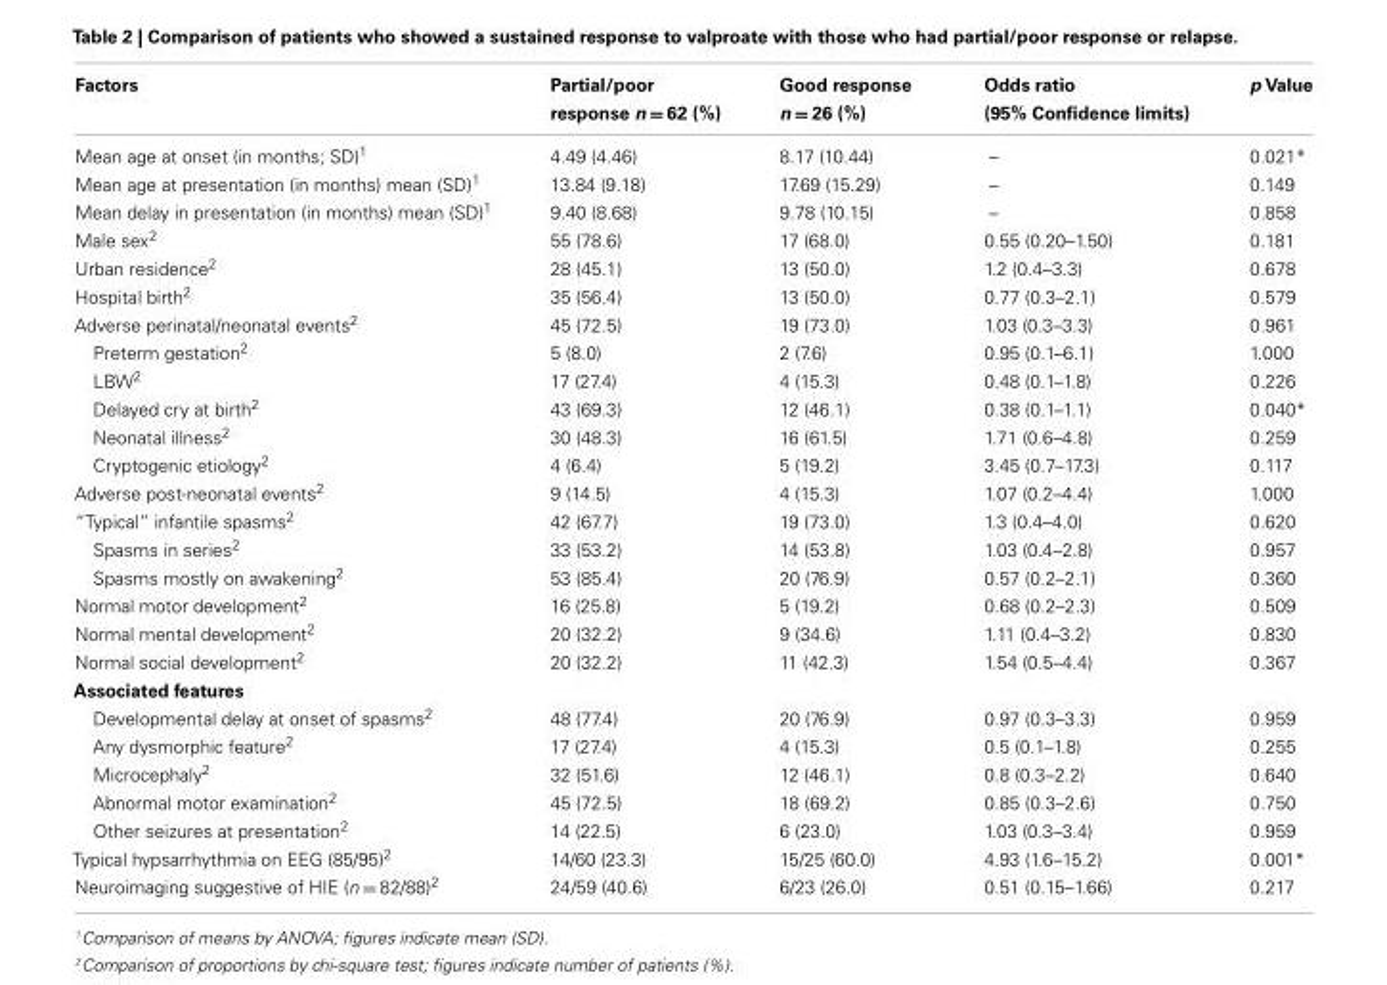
<table><thead><tr><td>Factors</td><td>Partial/poor response n = 62 (%)</td><td>Good response n = 26 (%)</td><td>Odds ratio (95% Confidence limits)</td><td>p Value</td></tr></thead><tbody><tr><td>Mean age at onset (in months; SD)<sup>1</sup></td><td>4.49 (4.46)</td><td>8.17 (10.44)</td><td>–</td><td>0.021*</td></tr><tr><td>Mean age at presentation (in months) mean (SD)<sup>1</sup></td><td>13.84 (9.18)</td><td>17.69 (15.29)</td><td>–</td><td>0.149</td></tr><tr><td>Mean delay in presentation (in months) mean (SD)<sup>1</sup></td><td>9.40 (8.68)</td><td>9.78 (10.15)</td><td>–</td><td>0.858</td></tr><tr><td>Male sex<sup>2</sup></td><td>55 (78.6)</td><td>17 (68.0)</td><td>0.55 (0.20–1.50)</td><td>0.181</td></tr><tr><td>Urban residence<sup>2</sup></td><td>28 (45.1)</td><td>13 (50.0)</td><td>1.2 (0.4–3.3)</td><td>0.678</td></tr><tr><td>Hospital birth<sup>2</sup></td><td>35 (56.4)</td><td>13 (50.0)</td><td>0.77 (0.3–2.1)</td><td>0.579</td></tr><tr><td>Adverse perinatal/neonatal events<sup>2</sup></td><td>45 (72.5)</td><td>19 (73.0)</td><td>1.03 (0.3–3.3)</td><td>0.961</td></tr><tr><td>Preterm gestation<sup>2</sup></td><td>5 (8.0)</td><td>2 (7.6)</td><td>0.95 (0.1–6.1)</td><td>1.000</td></tr><tr><td>LBW<sup>2</sup></td><td>17 (27.4)</td><td>4 (15.3)</td><td>0.48 (0.1–1.8)</td><td>0.226</td></tr><tr><td>Delayed cry at birth<sup>2</sup></td><td>43 (69.3)</td><td>12 (46.1)</td><td>0.38 (0.1–1.1)</td><td>0.040*</td></tr><tr><td>Neonatal illness<sup>2</sup></td><td>30 (48.3)</td><td>16 (61.5)</td><td>1.71 (0.6–4.8)</td><td>0.259</td></tr><tr><td>Cryptogenic etiology<sup>2</sup></td><td>4 (6.4)</td><td>5 (19.2)</td><td>3.45 (0.7–17.3)</td><td>0.117</td></tr><tr><td>Adverse post-neonatal events<sup>2</sup></td><td>9 (14.5)</td><td>4 (15.3)</td><td>1.07 (0.2–4.4)</td><td>1.000</td></tr><tr><td>“Typical” infantile spasms<sup>2</sup></td><td>42 (67.7)</td><td>19 (73.0)</td><td>1.3 (0.4–4.0)</td><td>0.620</td></tr><tr><td>Spasms in series<sup>2</sup></td><td>33 (53.2)</td><td>14 (53.8)</td><td>1.03 (0.4–2.8)</td><td>0.957</td></tr><tr><td>Spasms mostly on awakening<sup>2</sup></td><td>53 (85.4)</td><td>20 (76.9)</td><td>0.57 (0.2–2.1)</td><td>0.360</td></tr><tr><td>Normal motor development<sup>2</sup></td><td>16 (25.8)</td><td>5 (19.2)</td><td>0.68 (0.2–2.3)</td><td>0.509</td></tr><tr><td>Normal mental development<sup>2</sup></td><td>20 (32.2)</td><td>9 (34.6)</td><td>1.11 (0.4–3.2)</td><td>0.830</td></tr><tr><td>Normal social development<sup>2</sup></td><td>20 (32.2)</td><td>11 (42.3)</td><td>1.54 (0.5–4.4)</td><td>0.367</td></tr><tr><td colspan="5">Associated features</td></tr><tr><td>Developmental delay at onset of spasms<sup>2</sup></td><td>48 (77.4)</td><td>20 (76.9)</td><td>0.97 (0.3–3.3)</td><td>0.959</td></tr><tr><td>Any dysmorphic feature<sup>2</sup></td><td>17 (27.4)</td><td>4 (15.3)</td><td>0.5 (0.1–1.8)</td><td>0.255</td></tr><tr><td>Microcephaly<sup>2</sup></td><td>32 (51.6)</td><td>12 (46.1)</td><td>0.8 (0.3–2.2)</td><td>0.640</td></tr><tr><td>Abnormal motor examination<sup>2</sup></td><td>45 (72.5)</td><td>18 (69.2)</td><td>0.85 (0.3–2.6)</td><td>0.750</td></tr><tr><td>Other seizures at presentation<sup>2</sup></td><td>14 (22.5)</td><td>6 (23.0)</td><td>1.03 (0.3–3.4)</td><td>0.959</td></tr><tr><td>Typical hypsarrhythmia on EEG (85/95)<sup>2</sup></td><td>14/60 (23.3)</td><td>15/25 (60.0)</td><td>4.93 (1.6–15.2)</td><td>0.001*</td></tr><tr><td>Neuroimaging suggestive of HIE (n = 82/88)<sup>2</sup></td><td>24/59 (40.6)</td><td>6/23 (26.0)</td><td>0.51 (0.15–1.66)</td><td>0.217</td></tr></tbody></table>